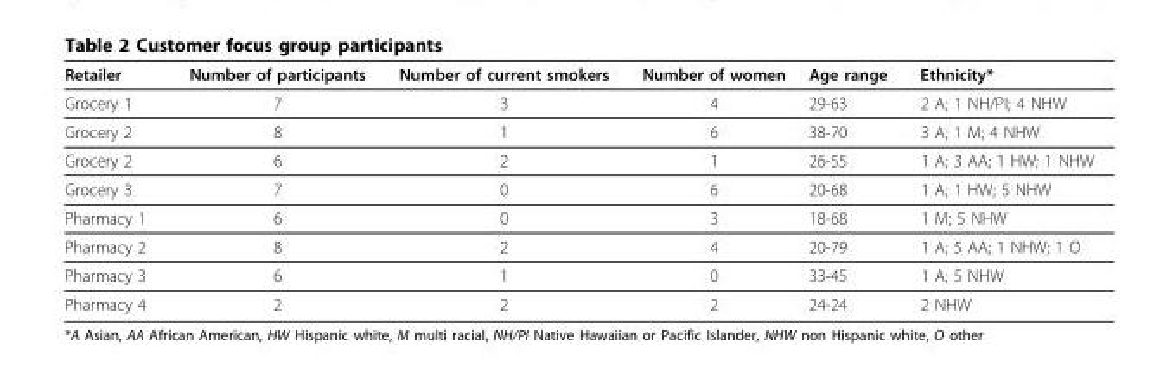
<table><thead><tr><td>Retailer</td><td>Number of participants</td><td>Number of current smokers</td><td>Number of women</td><td>Age range</td><td>Ethnicity*</td></tr></thead><tbody><tr><td>Grocery 1</td><td>7</td><td>3</td><td>4</td><td>29-63</td><td>2 A; 1 NH/PI; 4 NHW</td></tr><tr><td>Grocery 2</td><td>8</td><td>1</td><td>6</td><td>38-70</td><td>3 A; 1 M; 4 NHW</td></tr><tr><td>Grocery 2</td><td>6</td><td>2</td><td>1</td><td>26-55</td><td>1 A; 3 AA; 1 HW; 1 NHW</td></tr><tr><td>Grocery 3</td><td>7</td><td>0</td><td>6</td><td>20-68</td><td>1 A; 1 HW; 5 NHW</td></tr><tr><td>Pharmacy 1</td><td>6</td><td>0</td><td>3</td><td>18-68</td><td>1 M; 5 NHW</td></tr><tr><td>Pharmacy 2</td><td>8</td><td>2</td><td>4</td><td>20-79</td><td>1 A; 5 AA; 1 NHW; 1 O</td></tr><tr><td>Pharmacy 3</td><td>6</td><td>1</td><td>0</td><td>33-45</td><td>1 A; 5 NHW</td></tr><tr><td>Pharmacy 4</td><td>2</td><td>2</td><td>2</td><td>24-24</td><td>2 NHW</td></tr></tbody></table>